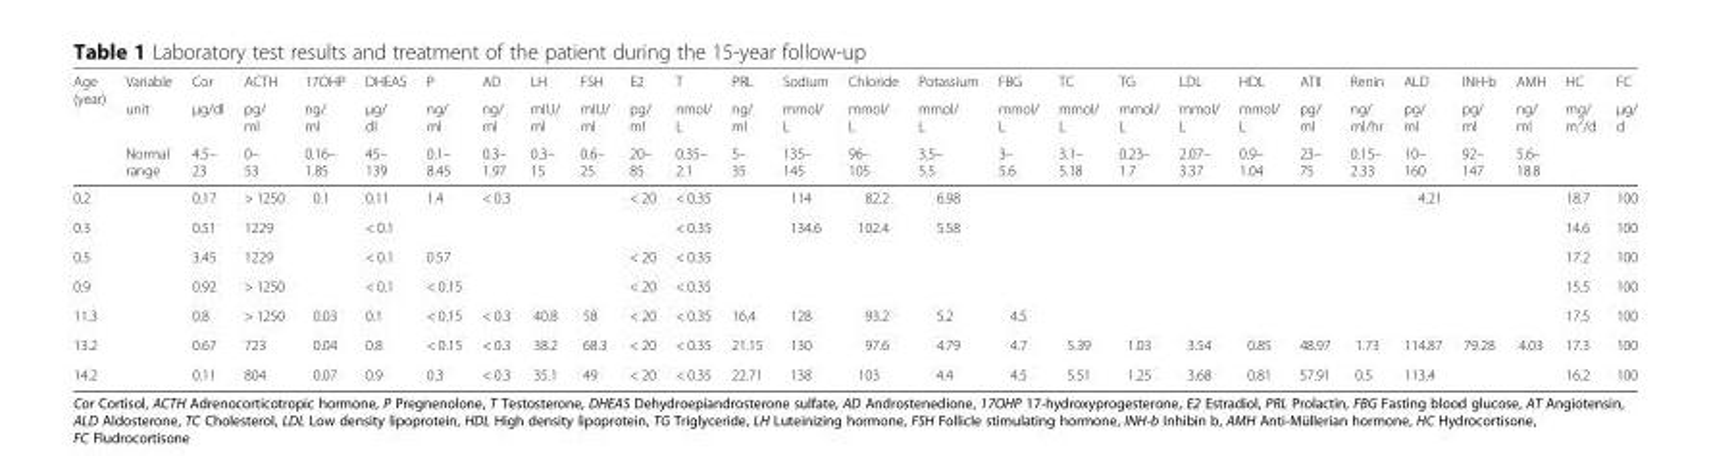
<table><thead><tr><td rowspan="3">Age (year)</td><td rowspan="3">Variable unit Normal range</td><td rowspan="3">Cor μg/dl 4.5– 23</td><td rowspan="3">ACTH pg/ ml 0– 53</td><td rowspan="3">17OHP ng/ ml 0.16– 1.85</td><td rowspan="3">DHEAS μg/ dl 45– 139</td><td rowspan="3">P ng/ ml 0.1– 8.45</td><td rowspan="3">AD ng/ ml 0.3– 1.97</td><td rowspan="3">LH mIU/ ml 0.3– 15</td><td rowspan="3">FSH mIU/ ml 0.6– 25</td><td rowspan="3">E2 pg/ ml 20– 85</td><td rowspan="3">T nmol/ L 0.35– 2.1</td><td rowspan="3">PRL ng/ ml 5– 35</td><td rowspan="3">Sodium mmol/ L 135– 145</td><td rowspan="3">Chloride mmol/ L 96– 105</td><td rowspan="3">Potassium mmol/ L 3.5– 5.5</td><td rowspan="3">FBG mmol/ L 3– 5.6</td><td rowspan="3">TC mmol/ L 3.1– 5.18</td><td rowspan="3">TG mmol/ L 0.23– 1.7</td><td rowspan="3">LDL mmol/ L 2.07– 3.37</td><td rowspan="3">HDL mmol/ L 0.9– 1.04</td><td rowspan="3">ATII pg/ ml 23– 75</td><td rowspan="3">Renin ng/ ml/hr 0.15– 2.33</td><td rowspan="3">ALD pg/ ml 10– 160</td><td rowspan="3">INH-b pg/ ml 92– 147</td><td rowspan="3">AMH ng/ ml 5.6– 18.8</td><td rowspan="3">HC mg/ m<sup>2</sup>/d</td><td rowspan="3">FC μg/ d</td></tr><tr></tr><tr></tr></thead><tbody><tr><td>0.2</td><td></td><td>0.17</td><td>&gt; 1250</td><td>0.1</td><td>0.11</td><td>1.4</td><td>&lt; 0.3</td><td></td><td></td><td>&lt; 20</td><td>&lt; 0.35</td><td></td><td>114</td><td>82.2</td><td>6.98</td><td></td><td></td><td></td><td></td><td></td><td></td><td></td><td>4.21</td><td></td><td></td><td>18.7</td><td>100</td></tr><tr><td>0.3</td><td></td><td>0.51</td><td>1229</td><td></td><td>&lt; 0.1</td><td></td><td></td><td></td><td></td><td></td><td>&lt; 0.35</td><td></td><td>134.6</td><td>102.4</td><td>5.58</td><td></td><td></td><td></td><td></td><td></td><td></td><td></td><td></td><td></td><td></td><td>14.6</td><td>100</td></tr><tr><td>0.5</td><td></td><td>3.45</td><td>1229</td><td></td><td>&lt; 0.1</td><td>0.57</td><td></td><td></td><td></td><td>&lt; 20</td><td>&lt; 0.35</td><td></td><td></td><td></td><td></td><td></td><td></td><td></td><td></td><td></td><td></td><td></td><td></td><td></td><td></td><td>17.2</td><td>100</td></tr><tr><td>0.9</td><td></td><td>0.92</td><td>&gt; 1250</td><td></td><td>&lt; 0.1</td><td>&lt; 0.15</td><td></td><td></td><td></td><td>&lt; 20</td><td>&lt; 0.35</td><td></td><td></td><td></td><td></td><td></td><td></td><td></td><td></td><td></td><td></td><td></td><td></td><td></td><td></td><td>15.5</td><td>100</td></tr><tr><td>11.3</td><td></td><td>0.8</td><td>&gt; 1250</td><td>0.03</td><td>0.1</td><td>&lt; 0.15</td><td>&lt; 0.3</td><td>40.8</td><td>58</td><td>&lt; 20</td><td>&lt; 0.35</td><td>16.4</td><td>128</td><td>93.2</td><td>5.2</td><td>4.5</td><td></td><td></td><td></td><td></td><td></td><td></td><td></td><td></td><td></td><td>17.5</td><td>100</td></tr><tr><td>13.2</td><td></td><td>0.67</td><td>723</td><td>0.04</td><td>0.8</td><td>&lt; 0.15</td><td>&lt; 0.3</td><td>38.2</td><td>68.3</td><td>&lt; 20</td><td>&lt; 0.35</td><td>21.15</td><td>130</td><td>97.6</td><td>4.79</td><td>4.7</td><td>5.39</td><td>1.03</td><td>3.54</td><td>0.85</td><td>48.97</td><td>1.73</td><td>114.87</td><td>79.28</td><td>4.03</td><td>17.3</td><td>100</td></tr><tr><td>14.2</td><td></td><td>0.11</td><td>804</td><td>0.07</td><td>0.9</td><td>0.3</td><td>&lt; 0.3</td><td>35.1</td><td>49</td><td>&lt; 20</td><td>&lt; 0.35</td><td>22.71</td><td>138</td><td>103</td><td>4.4</td><td>4.5</td><td>5.51</td><td>1.25</td><td>3.68</td><td>0.81</td><td>57.91</td><td>0.5</td><td>113.4</td><td></td><td></td><td>16.2</td><td>100</td></tr></tbody></table>